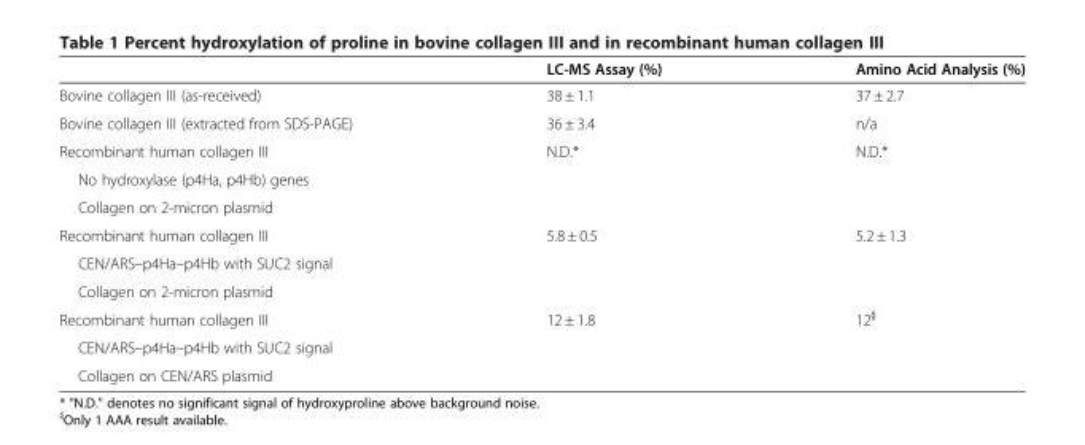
<table><thead><tr><td></td><td>LC-MS Assay (%)</td><td>Amino Acid Analysis (%)</td></tr></thead><tbody><tr><td>Bovine collagen III (as-received)</td><td>38 ± 1.1</td><td>37 ± 2.7</td></tr><tr><td>Bovine collagen III (extracted from SDS-PAGE)</td><td>36 ± 3.4</td><td>n/a</td></tr><tr><td>Recombinant human collagen III</td><td rowspan="3">N.D.*</td><td rowspan="3">N.D.*</td></tr><tr><td>No hydroxylase (p4Ha, p4Hb) genes</td></tr><tr><td>Collagen on 2-micron plasmid</td></tr><tr><td>Recombinant human collagen III</td><td rowspan="3">5.8 ± 0.5</td><td rowspan="3">5.2 ± 1.3</td></tr><tr><td>CEN/ARS–p4Ha–p4Hb with SUC2 signal</td></tr><tr><td>Collagen on 2-micron plasmid</td></tr><tr><td>Recombinant human collagen III</td><td rowspan="3">12 ± 1.8</td><td rowspan="3">12<sup>§</sup></td></tr><tr><td>CEN/ARS–p4Ha–p4Hb with SUC2 signal</td></tr><tr><td>Collagen on CEN/ARS plasmid</td></tr></tbody></table>